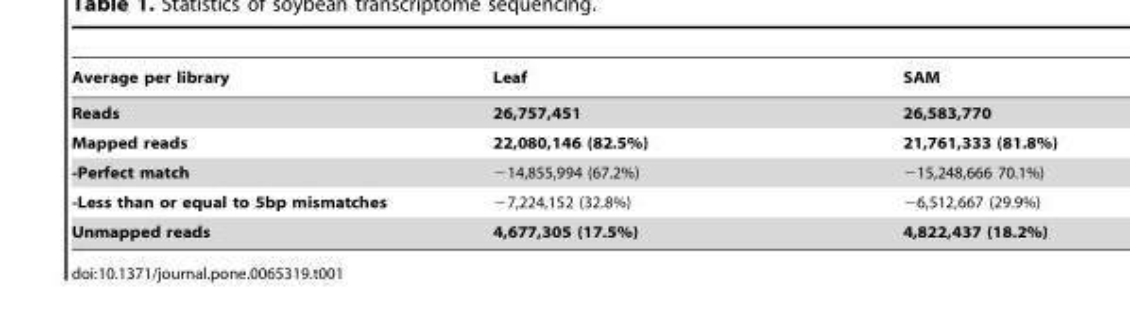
<table><thead><tr><td>Average per library</td><td>Leaf</td><td>SAM</td></tr></thead><tbody><tr><td>Reads</td><td>26,757,451</td><td>26,583,770</td></tr><tr><td>Mapped reads</td><td>22,080,146 (82.5%)</td><td>21,761,333 (81.8%)</td></tr><tr><td>-Perfect match</td><td>−14,855,994 (67.2%)</td><td>−15,248,666 70.1%)</td></tr><tr><td>-Less than or equal to 5bp mismatches</td><td>−7,224,152 (32.8%)</td><td>−6,512,667 (29.9%)</td></tr><tr><td>Unmapped reads</td><td>4,677,305 (17.5%)</td><td>4,822,437 (18.2%)</td></tr></tbody></table>